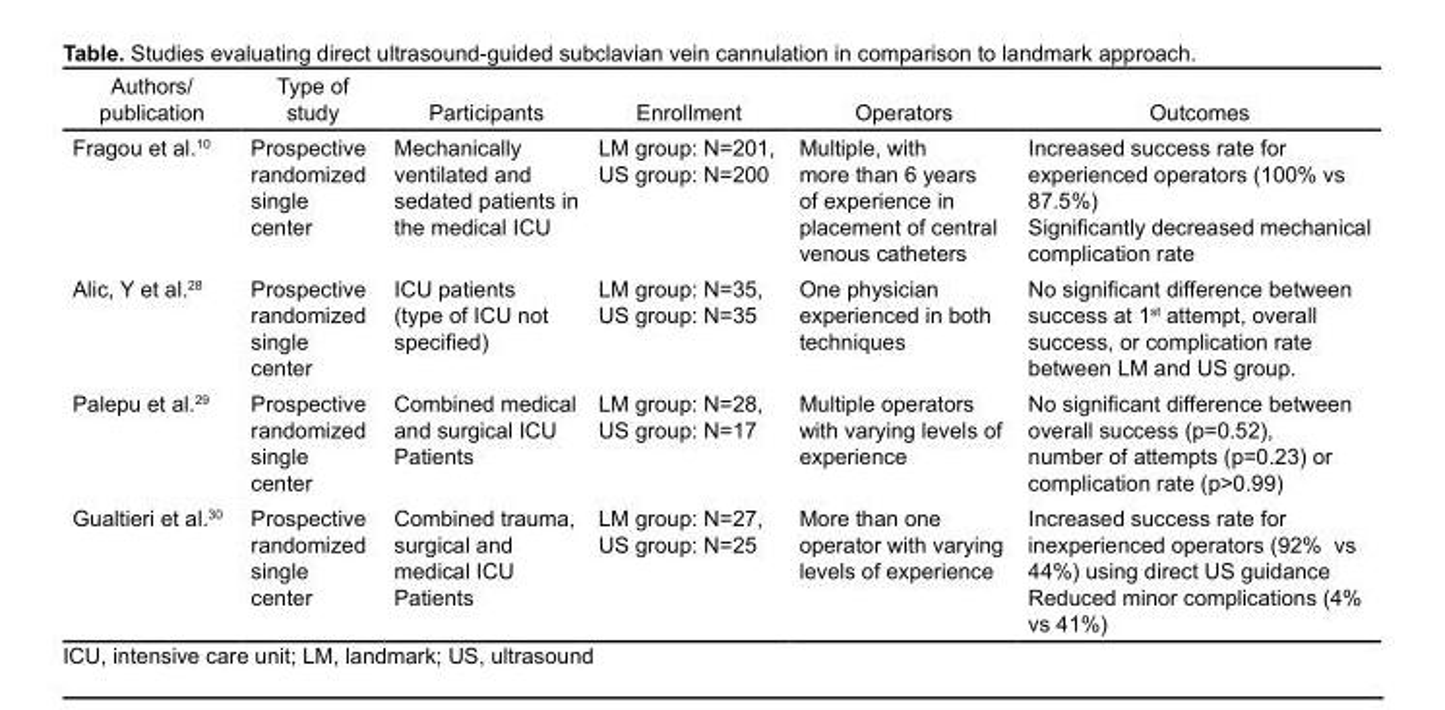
<table><thead><tr><td>Authors/ publication</td><td>Type of study</td><td>Participants</td><td>Enrollment</td><td>Operators</td><td>Outcomes</td></tr></thead><tbody><tr><td>Fragou et al.10</td><td>Prospective randomized single center</td><td>Mechanically ventilated and sedated patients in the medical ICU</td><td>LM group: N=201, US group: N=200</td><td>Multiple, with more than 6 years of experience in placement of central venous catheters</td><td>Increased success rate for experienced operators (100% vs 87.5%) Significantly decreased mechanical complication rate</td></tr><tr><td>Alic, Y et al.28</td><td>Prospective randomized single center</td><td>ICU patients (type of ICU not specified)</td><td>LM group: N=35, US group: N=35</td><td>One physician experienced in both techniques</td><td>No significant difference between success at 1<sup>st</sup> attempt, overall success, or complication rate between LM and US group.</td></tr><tr><td>Palepu et al.29</td><td>Prospective randomized single center</td><td>Combined medical and surgical ICU Patients</td><td>LM group: N=28, US group: N=17</td><td>Multiple operators with varying levels of experience</td><td>No significant difference between overall success (p=0.52), number of attempts (p=0.23) or complication rate (p&gt;0.99)</td></tr><tr><td>Gualtieri et al.30</td><td>Prospective randomized single center</td><td>Combined trauma, surgical and medical ICU Patients</td><td>LM group: N=27, US group: N=25</td><td>More than one operator with varying levels of experience</td><td>Increased success rate for inexperienced operators (92% vs 44%) using direct US guidance Reduced minor complications (4% vs 41%)</td></tr></tbody></table>